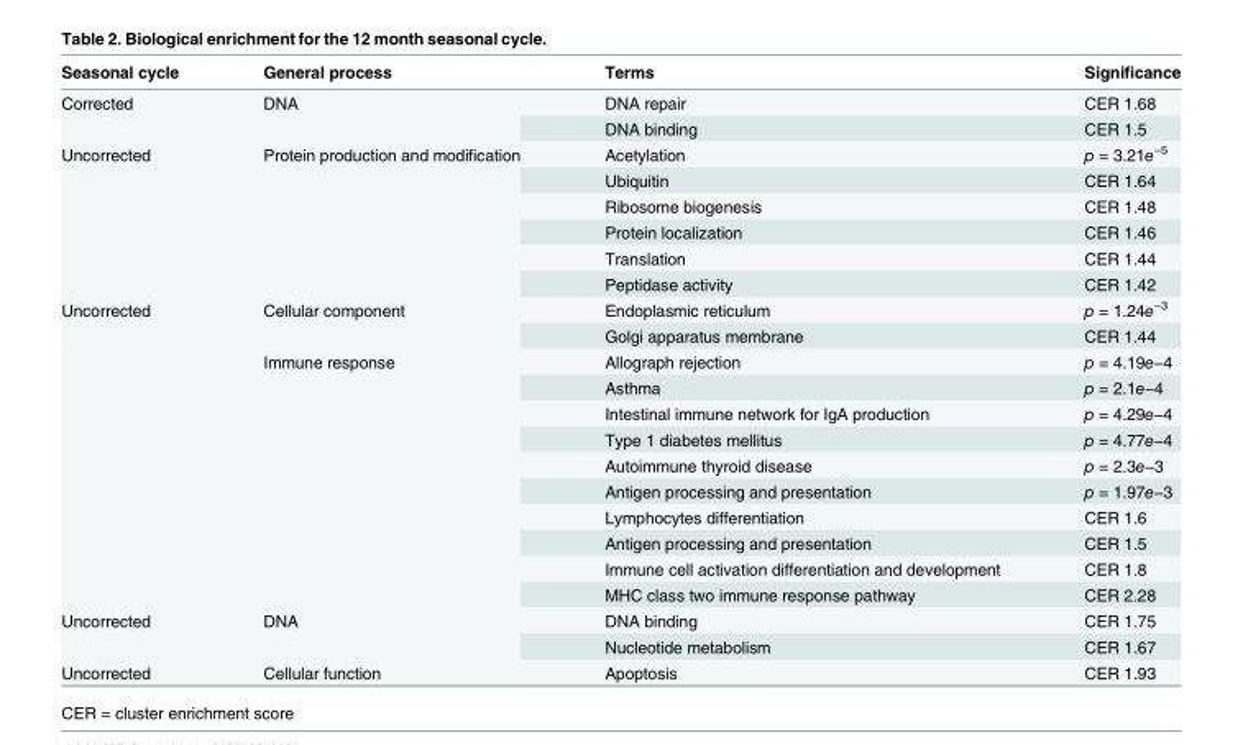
<table><thead><tr><td>Seasonal cycle</td><td>General process</td><td>Terms</td><td>Significance</td></tr></thead><tbody><tr><td rowspan="2">Corrected</td><td rowspan="2">DNA</td><td>DNA repair</td><td>CER 1.68</td></tr><tr><td>DNA binding</td><td>CER 1.5</td></tr><tr><td rowspan="6">Uncorrected</td><td rowspan="6">Protein production and modification</td><td>Acetylation</td><td>p = 3.21e<sup>−5</sup></td></tr><tr><td>Ubiquitin</td><td>CER 1.64</td></tr><tr><td>Ribosome biogenesis</td><td>CER 1.48</td></tr><tr><td>Protein localization</td><td>CER 1.46</td></tr><tr><td>Translation</td><td>CER 1.44</td></tr><tr><td>Peptidase activity</td><td>CER 1.42</td></tr><tr><td rowspan="12">Uncorrected</td><td rowspan="2">Cellular component</td><td>Endoplasmic reticulum</td><td>p = 1.24e<sup>−3</sup></td></tr><tr><td>Golgi apparatus membrane</td><td>CER 1.44</td></tr><tr><td rowspan="10">Immune response</td><td>Allograph rejection</td><td>p = 4.19e−4</td></tr><tr><td>Asthma</td><td>p = 2.1e−4</td></tr><tr><td>Intestinal immune network for IgA production</td><td>p = 4.29e−4</td></tr><tr><td>Type 1 diabetes mellitus</td><td>p = 4.77e−4</td></tr><tr><td>Autoimmune thyroid disease</td><td>p = 2.3e−3</td></tr><tr><td>Antigen processing and presentation</td><td>p = 1.97e−3</td></tr><tr><td>Lymphocytes differentiation</td><td>CER 1.6</td></tr><tr><td>Antigen processing and presentation</td><td>CER 1.5</td></tr><tr><td>Immune cell activation differentiation and development</td><td>CER 1.8</td></tr><tr><td>MHC class two immune response pathway</td><td>CER 2.28</td></tr><tr><td rowspan="2">Uncorrected</td><td rowspan="2">DNA</td><td>DNA binding</td><td>CER 1.75</td></tr><tr><td>Nucleotide metabolism</td><td>CER 1.67</td></tr><tr><td>Uncorrected</td><td>Cellular function</td><td>Apoptosis</td><td>CER 1.93</td></tr></tbody></table>